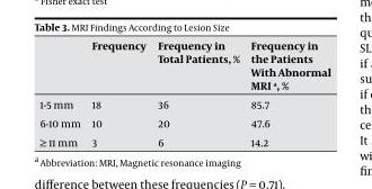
<table><thead><tr><td></td><td>Frequency</td><td>Frequency in total Patients, %</td><td>Frequency in the Patients With abnormal Mri a, %</td></tr></thead><tbody><tr><td>1-5 mm</td><td>18</td><td>36</td><td>85.7</td></tr><tr><td>6-10 mm</td><td>10</td><td>20</td><td>47.6</td></tr><tr><td>≥ 11 mm</td><td>3</td><td>6</td><td>14.2</td></tr></tbody></table>